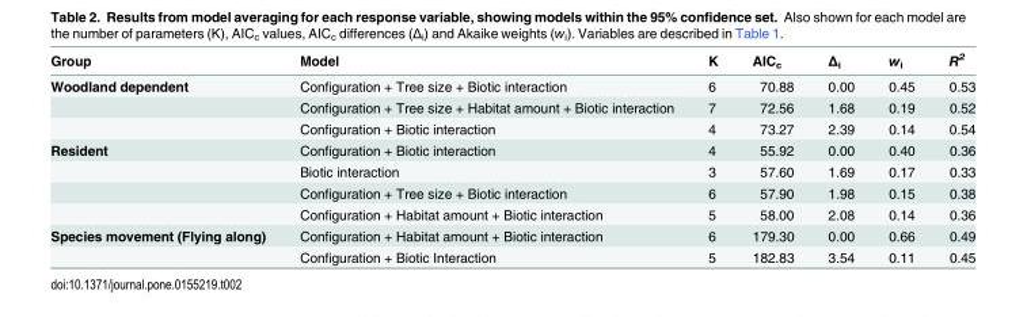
<table><thead><tr><td>Group</td><td>Model</td><td>K</td><td>AIC<sub>c</sub></td><td>Δ<sub>i</sub></td><td>w<sub>i</sub></td><td>R<sup>2</sup></td></tr></thead><tbody><tr><td rowspan="3">Woodland dependent</td><td>Configuration + Tree size + Biotic interaction</td><td>6</td><td>70.88</td><td>0.00</td><td>0.45</td><td>0.53</td></tr><tr><td>Configuration + Tree size + Habitat amount + Biotic interaction</td><td>7</td><td>72.56</td><td>1.68</td><td>0.19</td><td>0.52</td></tr><tr><td>Configuration + Biotic interaction</td><td>4</td><td>73.27</td><td>2.39</td><td>0.14</td><td>0.54</td></tr><tr><td rowspan="4">Resident</td><td>Configuration + Biotic interaction</td><td>4</td><td>55.92</td><td>0.00</td><td>0.40</td><td>0.36</td></tr><tr><td>Biotic interaction</td><td>3</td><td>57.60</td><td>1.69</td><td>0.17</td><td>0.33</td></tr><tr><td>Configuration + Tree size + Biotic interaction</td><td>6</td><td>57.90</td><td>1.98</td><td>0.15</td><td>0.38</td></tr><tr><td>Configuration + Habitat amount + Biotic interaction</td><td>5</td><td>58.00</td><td>2.08</td><td>0.14</td><td>0.36</td></tr><tr><td rowspan="2">Species movement (Flying along)</td><td>Configuration + Habitat amount + Biotic interaction</td><td>6</td><td>179.30</td><td>0.00</td><td>0.66</td><td>0.49</td></tr><tr><td>Configuration + Biotic Interaction</td><td>5</td><td>182.83</td><td>3.54</td><td>0.11</td><td>0.45</td></tr></tbody></table>